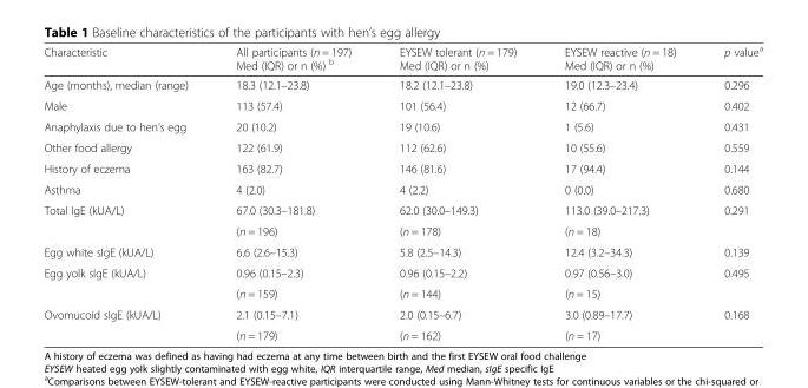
<table><thead><tr><td>Characteristic</td><td>All participants (n = 197) Med (IQR) or n (%) <sup>b</sup></td><td>EYSEW tolerant (n = 179) Med (IQR) or n (%)</td><td>EYSEW reactive (n = 18) Med (IQR) or n (%)</td><td>p value<sup>a</sup></td></tr></thead><tbody><tr><td>Age (months), median (range)</td><td>18.3 (12.1–23.8)</td><td>18.2 (12.1–23.8)</td><td>19.0 (12.3–23.4)</td><td>0.296</td></tr><tr><td>Male</td><td>113 (57.4)</td><td>101 (56.4)</td><td>12 (66.7)</td><td>0.402</td></tr><tr><td>Anaphylaxis due to hen’s egg</td><td>20 (10.2)</td><td>19 (10.6)</td><td>1 (5.6)</td><td>0.431</td></tr><tr><td>Other food allergy</td><td>122 (61.9)</td><td>112 (62.6)</td><td>10 (55.6)</td><td>0.559</td></tr><tr><td>History of eczema</td><td>163 (82.7)</td><td>146 (81.6)</td><td>17 (94.4)</td><td>0.144</td></tr><tr><td>Asthma</td><td>4 (2.0)</td><td>4 (2.2)</td><td>0 (0.0)</td><td>0.680</td></tr><tr><td rowspan="2">Total IgE (kUA/L)</td><td>67.0 (30.3–181.8)</td><td>62.0 (30.0–149.3)</td><td>113.0 (39.0–217.3)</td><td>0.291</td></tr><tr><td>(n = 196)</td><td>(n = 178)</td><td>(n = 18)</td><td></td></tr><tr><td>Egg white sIgE (kUA/L)</td><td>6.6 (2.6–15.3)</td><td>5.8 (2.5–14.3)</td><td>12.4 (3.2–34.3)</td><td>0.139</td></tr><tr><td rowspan="2">Egg yolk sIgE (kUA/L)</td><td>0.96 (0.15–2.3)</td><td>0.96 (0.15–2.2)</td><td>0.97 (0.56–3.0)</td><td>0.495</td></tr><tr><td>(n = 159)</td><td>(n = 144)</td><td>(n = 15)</td><td></td></tr><tr><td rowspan="2">Ovomucoid sIgE (kUA/L)</td><td>2.1 (0.15–7.1)</td><td>2.0 (0.15–6.7)</td><td>3.0 (0.89–17.7)</td><td>0.168</td></tr><tr><td>(n = 179)</td><td>(n = 162)</td><td>(n = 17)</td><td></td></tr></tbody></table>